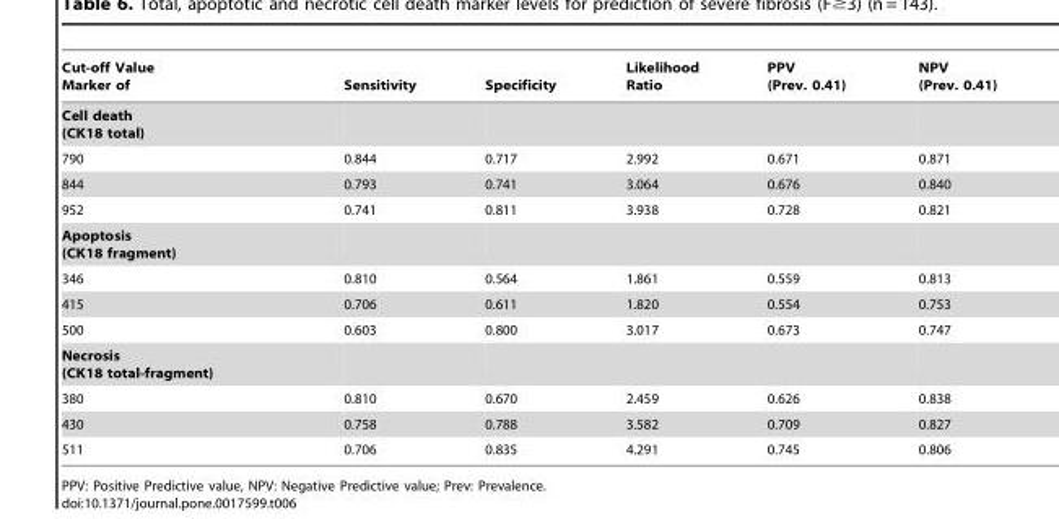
<table><thead><tr><td>Cut-off Value Marker of</td><td>Sensitivity</td><td>Specificity</td><td>Likelihood Ratio</td><td>PPV (Prev. 0.41)</td><td>NPV (Prev. 0.41)</td></tr></thead><tbody><tr><td colspan="6">Cell death (CK18 total)</td></tr><tr><td>790</td><td>0.844</td><td>0.717</td><td>2.992</td><td>0.671</td><td>0.871</td></tr><tr><td>844</td><td>0.793</td><td>0.741</td><td>3.064</td><td>0.676</td><td>0.840</td></tr><tr><td>952</td><td>0.741</td><td>0.811</td><td>3.938</td><td>0.728</td><td>0.821</td></tr><tr><td colspan="6">Apoptosis (CK18 fragment)</td></tr><tr><td>346</td><td>0.810</td><td>0.564</td><td>1.861</td><td>0.559</td><td>0.813</td></tr><tr><td>415</td><td>0.706</td><td>0.611</td><td>1.820</td><td>0.554</td><td>0.753</td></tr><tr><td>500</td><td>0.603</td><td>0.800</td><td>3.017</td><td>0.673</td><td>0.747</td></tr><tr><td colspan="6">Necrosis (CK18 total-fragment)</td></tr><tr><td>380</td><td>0.810</td><td>0.670</td><td>2.459</td><td>0.626</td><td>0.838</td></tr><tr><td>430</td><td>0.758</td><td>0.788</td><td>3.582</td><td>0.709</td><td>0.827</td></tr><tr><td>511</td><td>0.706</td><td>0.835</td><td>4.291</td><td>0.745</td><td>0.806</td></tr></tbody></table>